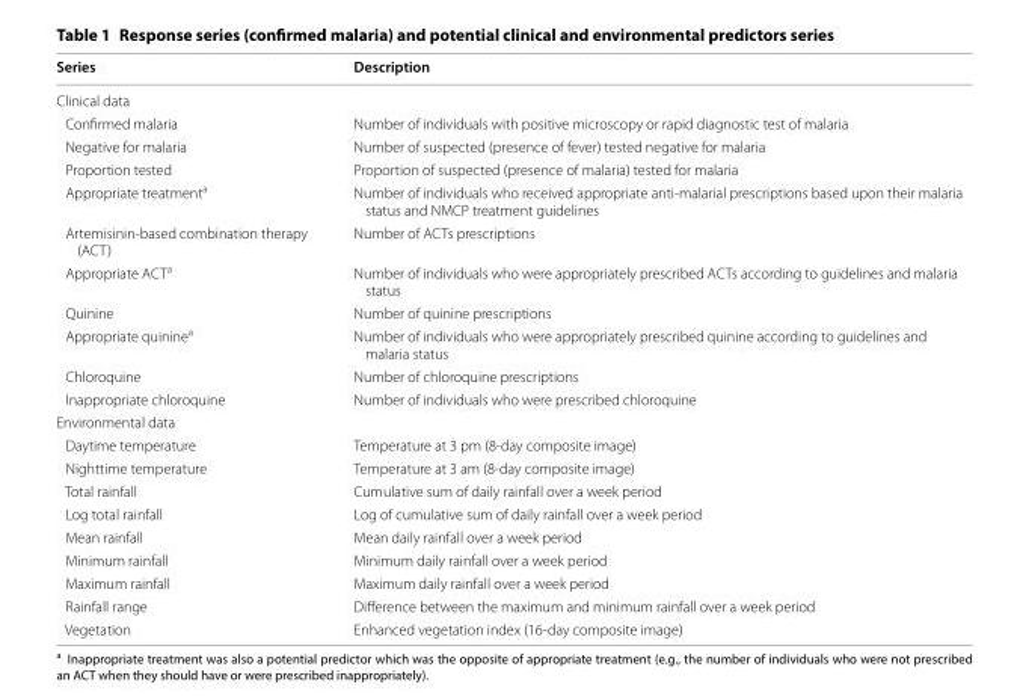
<table><thead><tr><td>Series</td><td>Description</td></tr></thead><tbody><tr><td colspan="2">Clinical data</td></tr><tr><td>Confirmed malaria</td><td>Number of individuals with positive microscopy or rapid diagnostic test of malaria</td></tr><tr><td>Negative for malaria</td><td>Number of suspected (presence of fever) tested negative for malaria</td></tr><tr><td>Proportion tested</td><td>Proportion of suspected (presence of malaria) tested for malaria</td></tr><tr><td>Appropriate treatment<sup>a</sup></td><td>Number of individuals who received appropriate anti-malarial prescriptions based upon their malaria status and NMCP treatment guidelines</td></tr><tr><td>Artemisinin-based combination therapy (ACT)</td><td>Number of ACTs prescriptions</td></tr><tr><td>Appropriate ACT<sup>a</sup></td><td>Number of individuals who were appropriately prescribed ACTs according to guidelines and malaria status</td></tr><tr><td>Quinine</td><td>Number of quinine prescriptions</td></tr><tr><td>Appropriate quinine<sup>a</sup></td><td>Number of individuals who were appropriately prescribed quinine according to guidelines and malaria status</td></tr><tr><td>Chloroquine</td><td>Number of chloroquine prescriptions</td></tr><tr><td>Inappropriate chloroquine</td><td>Number of individuals who were prescribed chloroquine</td></tr><tr><td colspan="2">Environmental data</td></tr><tr><td>Daytime temperature</td><td>Temperature at 3 pm (8-day composite image)</td></tr><tr><td>Nighttime temperature</td><td>Temperature at 3 am (8-day composite image)</td></tr><tr><td>Total rainfall</td><td>Cumulative sum of daily rainfall over a week period</td></tr><tr><td>Log total rainfall</td><td>Log of cumulative sum of daily rainfall over a week period</td></tr><tr><td>Mean rainfall</td><td>Mean daily rainfall over a week period</td></tr><tr><td>Minimum rainfall</td><td>Minimum daily rainfall over a week period</td></tr><tr><td>Maximum rainfall</td><td>Maximum daily rainfall over a week period</td></tr><tr><td>Rainfall range</td><td>Difference between the maximum and minimum rainfall over a week period</td></tr><tr><td>Vegetation</td><td>Enhanced vegetation index (16-day composite image)</td></tr></tbody></table>